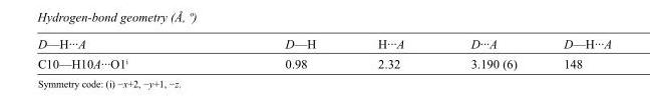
<table><tbody><tr><td>D—H···A</td><td>D—H</td><td>H···A</td><td>D···A</td><td>D—H···A</td></tr><tr><td>C10—H10A···O1<sup>i</sup></td><td>0.98</td><td>2.32</td><td>3.190 (6)</td><td>148</td></tr></tbody></table>